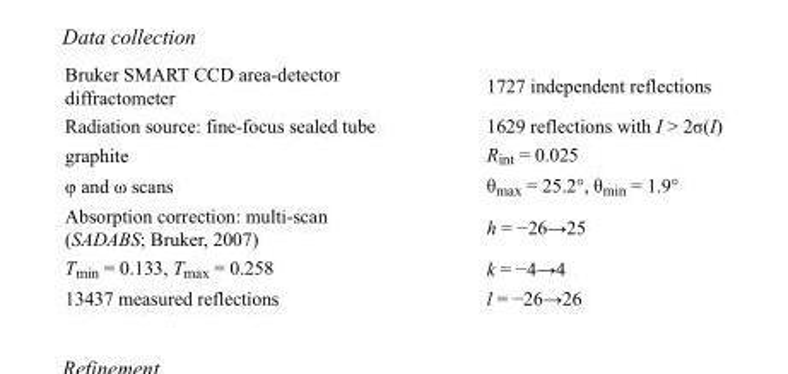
<table><tbody><tr><td>Bruker SMART CCD area-detector diffractometer</td><td>1727 independent reflections</td></tr><tr><td>Radiation source: fine-focus sealed tube</td><td>1629 reflections with I &gt; 2σ(I)</td></tr><tr><td>graphite</td><td>R<sub>int</sub> = 0.025</td></tr><tr><td>φ and ω scans</td><td>θ<sub>max</sub> = 25.2°, θ<sub>min</sub> = 1.9°</td></tr><tr><td>Absorption correction: multi-scan (SADABS; Bruker, 2007)</td><td>h = −26→25</td></tr><tr><td>T<sub>min</sub> = 0.133, T<sub>max</sub> = 0.258</td><td>k = −4→4</td></tr><tr><td>13437 measured reflections</td><td>l = −26→26</td></tr></tbody></table>